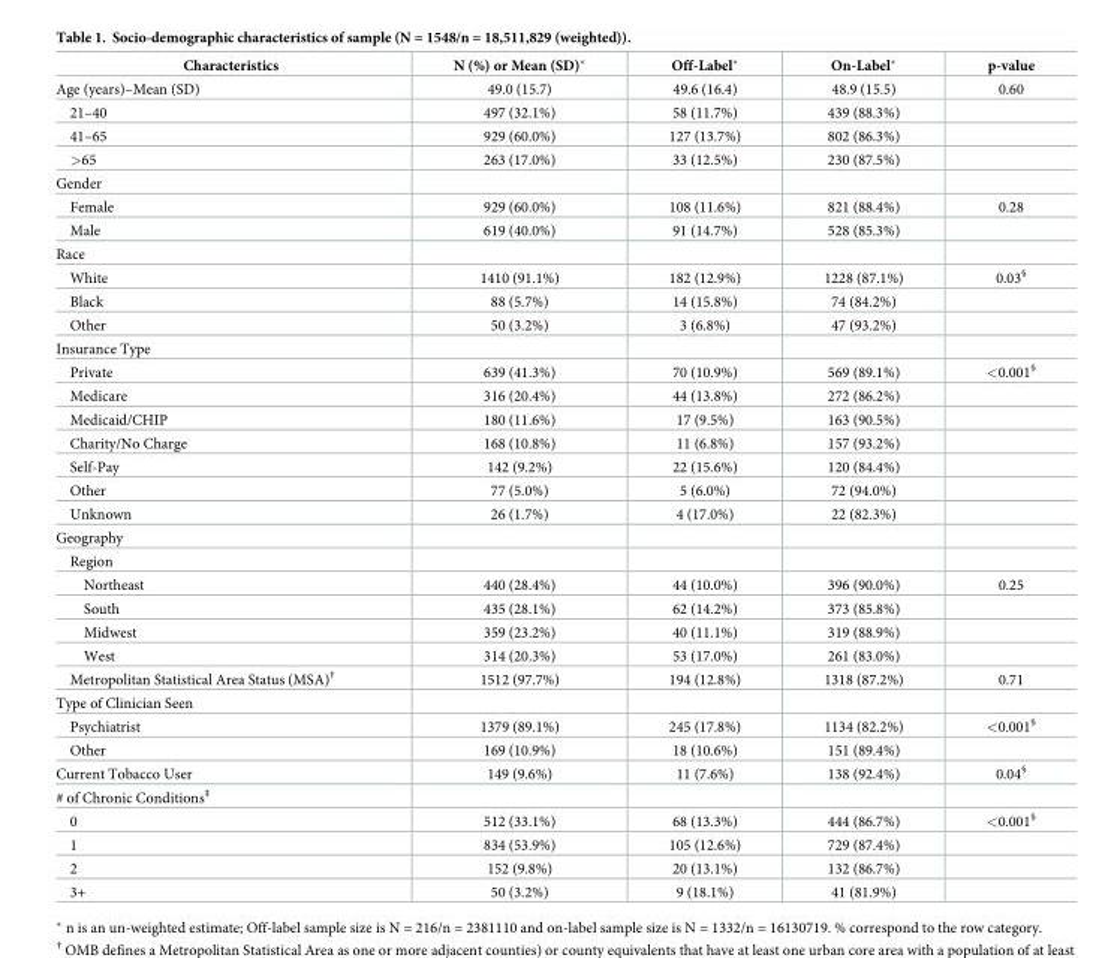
<table><thead><tr><td>Characteristics</td><td>N (%) or Mean (SD)*</td><td>Off-Label*</td><td>On-Label*</td><td>p-value</td></tr></thead><tbody><tr><td>Age (years)–Mean (SD)</td><td>49.0 (15.7)</td><td>49.6 (16.4)</td><td>48.9 (15.5)</td><td>0.60</td></tr><tr><td>21–40</td><td>497 (32.1%)</td><td>58 (11.7%)</td><td>439 (88.3%)</td><td></td></tr><tr><td>41–65</td><td>929 (60.0%)</td><td>127 (13.7%)</td><td>802 (86.3%)</td><td></td></tr><tr><td>&gt;65</td><td>263 (17.0%)</td><td>33 (12.5%)</td><td>230 (87.5%)</td><td></td></tr><tr><td colspan="5">Gender</td></tr><tr><td>Female</td><td>929 (60.0%)</td><td>108 (11.6%)</td><td>821 (88.4%)</td><td>0.28</td></tr><tr><td>Male</td><td>619 (40.0%)</td><td>91 (14.7%)</td><td>528 (85.3%)</td><td></td></tr><tr><td colspan="5">Race</td></tr><tr><td>White</td><td>1410 (91.1%)</td><td>182 (12.9%)</td><td>1228 (87.1%)</td><td>0.03<sup>§</sup></td></tr><tr><td>Black</td><td>88 (5.7%)</td><td>14 (15.8%)</td><td>74 (84.2%)</td><td></td></tr><tr><td>Other</td><td>50 (3.2%)</td><td>3 (6.8%)</td><td>47 (93.2%)</td><td></td></tr><tr><td colspan="5">Insurance Type</td></tr><tr><td>Private</td><td>639 (41.3%)</td><td>70 (10.9%)</td><td>569 (89.1%)</td><td>&lt;0.001<sup>§</sup></td></tr><tr><td>Medicare</td><td>316 (20.4%)</td><td>44 (13.8%)</td><td>272 (86.2%)</td><td></td></tr><tr><td>Medicaid/CHIP</td><td>180 (11.6%)</td><td>17 (9.5%)</td><td>163 (90.5%)</td><td></td></tr><tr><td>Charity/No Charge</td><td>168 (10.8%)</td><td>11 (6.8%)</td><td>157 (93.2%)</td><td></td></tr><tr><td>Self-Pay</td><td>142 (9.2%)</td><td>22 (15.6%)</td><td>120 (84.4%)</td><td></td></tr><tr><td>Other</td><td>77 (5.0%)</td><td>5 (6.0%)</td><td>72 (94.0%)</td><td></td></tr><tr><td>Unknown</td><td>26 (1.7%)</td><td>4 (17.0%)</td><td>22 (82.3%)</td><td></td></tr><tr><td colspan="5">Geography</td></tr><tr><td colspan="5">Region</td></tr><tr><td>Northeast</td><td>440 (28.4%)</td><td>44 (10.0%)</td><td>396 (90.0%)</td><td>0.25</td></tr><tr><td>South</td><td>435 (28.1%)</td><td>62 (14.2%)</td><td>373 (85.8%)</td><td></td></tr><tr><td>Midwest</td><td>359 (23.2%)</td><td>40 (11.1%)</td><td>319 (88.9%)</td><td></td></tr><tr><td>West</td><td>314 (20.3%)</td><td>53 (17.0%)</td><td>261 (83.0%)</td><td></td></tr><tr><td>Metropolitan Statistical Area Status (MSA)<sup>†</sup></td><td>1512 (97.7%)</td><td>194 (12.8%)</td><td>1318 (87.2%)</td><td>0.71</td></tr><tr><td colspan="5">Type of Clinician Seen</td></tr><tr><td>Psychiatrist</td><td>1379 (89.1%)</td><td>245 (17.8%)</td><td>1134 (82.2%)</td><td>&lt;0.001<sup>§</sup></td></tr><tr><td>Other</td><td>169 (10.9%)</td><td>18 (10.6%)</td><td>151 (89.4%)</td><td></td></tr><tr><td>Current Tobacco User</td><td>149 (9.6%)</td><td>11 (7.6%)</td><td>138 (92.4%)</td><td>0.04<sup>§</sup></td></tr><tr><td colspan="5"># of Chronic Conditions<sup>‡</sup></td></tr><tr><td>0</td><td>512 (33.1%)</td><td>68 (13.3%)</td><td>444 (86.7%)</td><td>&lt;0.001<sup>§</sup></td></tr><tr><td>1</td><td>834 (53.9%)</td><td>105 (12.6%)</td><td>729 (87.4%)</td><td></td></tr><tr><td>2</td><td>152 (9.8%)</td><td>20 (13.1%)</td><td>132 (86.7%)</td><td></td></tr><tr><td>3+</td><td>50 (3.2%)</td><td>9 (18.1%)</td><td>41 (81.9%)</td><td></td></tr></tbody></table>